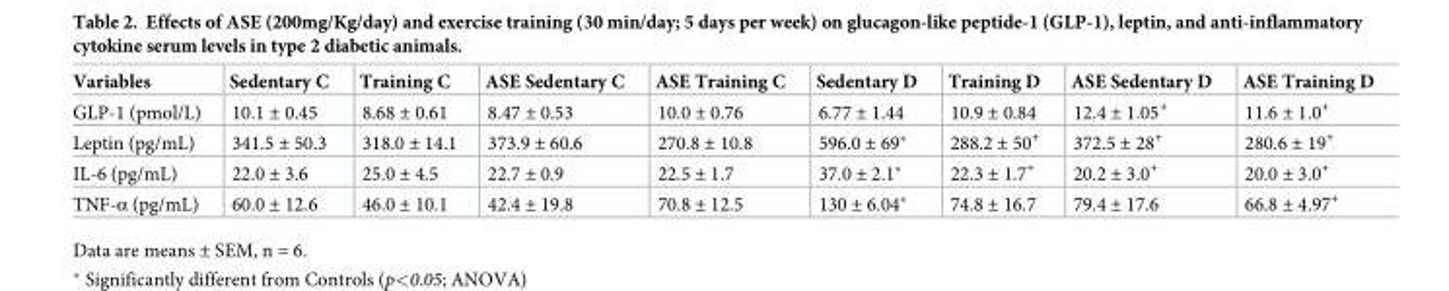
<table><thead><tr><td>Variables</td><td>Sedentary C</td><td>Training C</td><td>ASE Sedentary C</td><td>ASE Training C</td><td>Sedentary D</td><td>Training D</td><td>ASE Sedentary D</td><td>ASE Training D</td></tr></thead><tbody><tr><td>GLP-1 (pmol/L)</td><td>10.1 ± 0.45</td><td>8.68 ± 0.61</td><td>8.47 ± 0.53</td><td>10.0 ± 0.76</td><td>6.77 ± 1.44</td><td>10.9 ± 0.84</td><td>12.4 ± 1.05<sup>+</sup></td><td>11.6 ± 1.0<sup>+</sup></td></tr><tr><td>Leptin (pg/mL)</td><td>341.5 ± 50.3</td><td>318.0 ± 14.1</td><td>373.9 ± 60.6</td><td>270.8 ± 10.8</td><td>596.0 ± 69*</td><td>288.2 ± 50<sup>+</sup></td><td>372.5 ± 28<sup>+</sup></td><td>280.6 ± 19<sup>+</sup></td></tr><tr><td>IL-6 (pg/mL)</td><td>22.0 ± 3.6</td><td>25.0 ± 4.5</td><td>22.7 ± 0.9</td><td>22.5 ± 1.7</td><td>37.0 ± 2.1*</td><td>22.3 ± 1.7<sup>+</sup></td><td>20.2 ± 3.0<sup>+</sup></td><td>20.0 ± 3.0<sup>+</sup></td></tr><tr><td>TNF-α (pg/mL)</td><td>60.0 ± 12.6</td><td>46.0 ± 10.1</td><td>42.4 ± 19.8</td><td>70.8 ± 12.5</td><td>130 ± 6.04*</td><td>74.8 ± 16.7</td><td>79.4 ± 17.6</td><td>66.8 ± 4.97<sup>+</sup></td></tr></tbody></table>